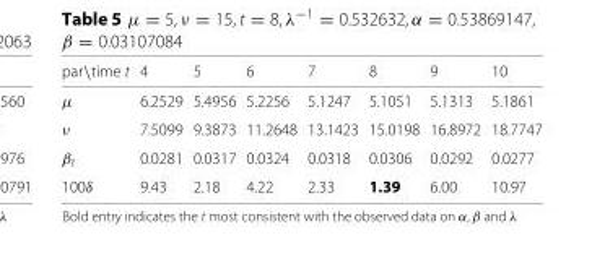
<table><thead><tr><td>par\time t</td><td>4</td><td>5</td><td>6</td><td>7</td><td>8</td><td>9</td><td>10</td></tr></thead><tbody><tr><td>μ</td><td>6.2529</td><td>5.4956</td><td>5.2256</td><td>5.1247</td><td>5.1051</td><td>5.1313</td><td>5.1861</td></tr><tr><td>ν</td><td>7.5099</td><td>9.3873</td><td>11.2648</td><td>13.1423</td><td>15.0198</td><td>16.8972</td><td>18.7747</td></tr><tr><td>β<sub>t</sub></td><td>0.0281</td><td>0.0317</td><td>0.0324</td><td>0.0318</td><td>0.0306</td><td>0.0292</td><td>0.0277</td></tr><tr><td>100δ</td><td>9.43</td><td>2.18</td><td>4.22</td><td>2.33</td><td>1.39</td><td>6.00</td><td>10.97</td></tr></tbody></table>